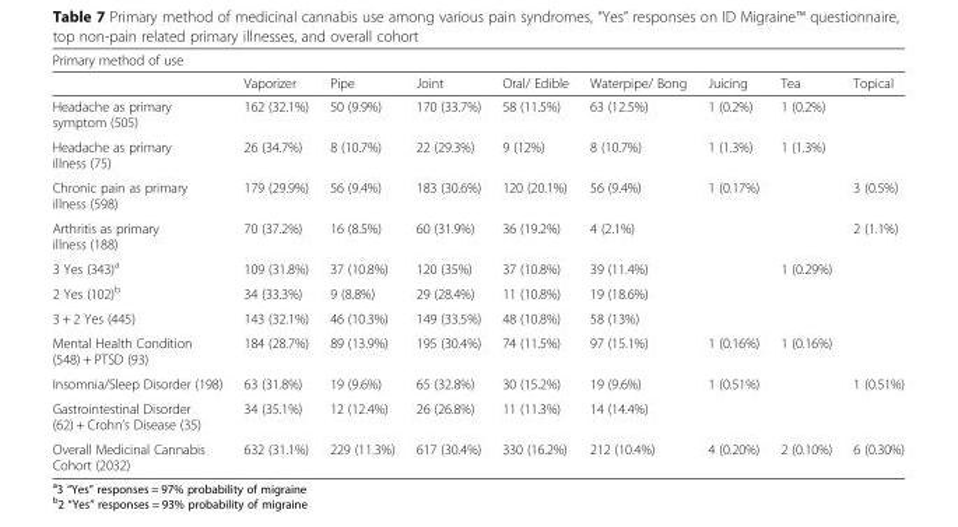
<table><thead><tr><td colspan="9">Primary method of use</td></tr><tr><td></td><td>Vaporizer</td><td>Pipe</td><td>Joint</td><td>Oral/ Edible</td><td>Waterpipe/ Bong</td><td>Juicing</td><td>Tea</td><td>Topical</td></tr></thead><tbody><tr><td>Headache as primary symptom (505)</td><td>162 (32.1%)</td><td>50 (9.9%)</td><td>170 (33.7%)</td><td>58 (11.5%)</td><td>63 (12.5%)</td><td>1 (0.2%)</td><td>1 (0.2%)</td><td></td></tr><tr><td>Headache as primary illness (75)</td><td>26 (34.7%)</td><td>8 (10.7%)</td><td>22 (29.3%)</td><td>9 (12%)</td><td>8 (10.7%)</td><td>1 (1.3%)</td><td>1 (1.3%)</td><td></td></tr><tr><td>Chronic pain as primary illness (598)</td><td>179 (29.9%)</td><td>56 (9.4%)</td><td>183 (30.6%)</td><td>120 (20.1%)</td><td>56 (9.4%)</td><td>1 (0.17%)</td><td></td><td>3 (0.5%)</td></tr><tr><td>Arthritis as primary illness (188)</td><td>70 (37.2%)</td><td>16 (8.5%)</td><td>60 (31.9%)</td><td>36 (19.2%)</td><td>4 (2.1%)</td><td></td><td></td><td>2 (1.1%)</td></tr><tr><td>3 Yes (343)<sup>a</sup></td><td>109 (31.8%)</td><td>37 (10.8%)</td><td>120 (35%)</td><td>37 (10.8%)</td><td>39 (11.4%)</td><td></td><td>1 (0.29%)</td><td></td></tr><tr><td>2 Yes (102)<sup>b</sup></td><td>34 (33.3%)</td><td>9 (8.8%)</td><td>29 (28.4%)</td><td>11 (10.8%)</td><td>19 (18.6%)</td><td></td><td></td><td></td></tr><tr><td>3 + 2 Yes (445)</td><td>143 (32.1%)</td><td>46 (10.3%)</td><td>149 (33.5%)</td><td>48 (10.8%)</td><td>58 (13%)</td><td></td><td></td><td></td></tr><tr><td>Mental Health Condition (548) + PTSD (93)</td><td>184 (28.7%)</td><td>89 (13.9%)</td><td>195 (30.4%)</td><td>74 (11.5%)</td><td>97 (15.1%)</td><td>1 (0.16%)</td><td>1 (0.16%)</td><td></td></tr><tr><td>Insomnia/Sleep Disorder (198)</td><td>63 (31.8%)</td><td>19 (9.6%)</td><td>65 (32.8%)</td><td>30 (15.2%)</td><td>19 (9.6%)</td><td>1 (0.51%)</td><td></td><td>1 (0.51%)</td></tr><tr><td>Gastrointestinal Disorder (62) + Crohn’s Disease (35)</td><td>34 (35.1%)</td><td>12 (12.4%)</td><td>26 (26.8%)</td><td>11 (11.3%)</td><td>14 (14.4%)</td><td></td><td></td><td></td></tr><tr><td>Overall Medicinal Cannabis Cohort (2032)</td><td>632 (31.1%)</td><td>229 (11.3%)</td><td>617 (30.4%)</td><td>330 (16.2%)</td><td>212 (10.4%)</td><td>4 (0.20%)</td><td>2 (0.10%)</td><td>6 (0.30%)</td></tr></tbody></table>